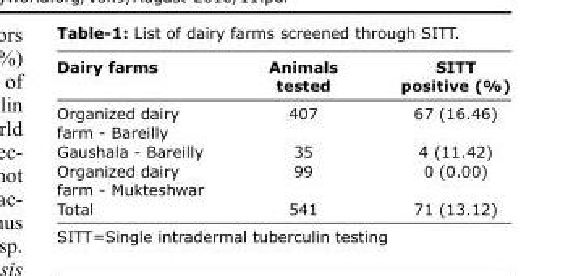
<table><thead><tr><td>Dairy farms</td><td>Animals tested</td><td>SITT positive (%)</td></tr></thead><tbody><tr><td>Organized dairy farm - Bareilly</td><td>407</td><td>67 (16.46)</td></tr><tr><td>Gaushala - Bareilly</td><td>35</td><td>4 (11.42)</td></tr><tr><td>Organized dairy farm - Mukteshwar</td><td>99</td><td>0 (0.00)</td></tr><tr><td>Total</td><td>541</td><td>71 (13.12)</td></tr></tbody></table>